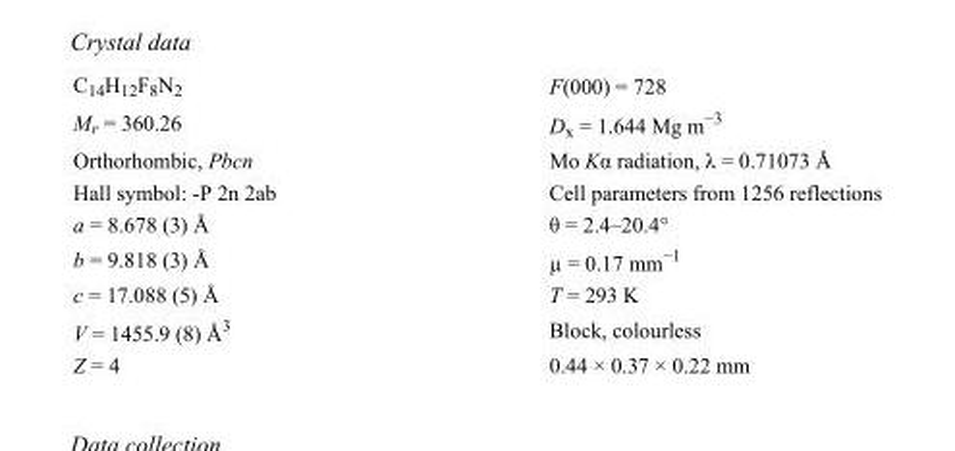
<table><tbody><tr><td>C<sub>14</sub>H<sub>12</sub>F<sub>8</sub>N<sub>2</sub></td><td>F(000) = 728</td></tr><tr><td>M<sub>r</sub> = 360.26</td><td>D<sub>x</sub> = 1.644 Mg m<sup>−3</sup></td></tr><tr><td>Orthorhombic, Pbcn</td><td>Mo Kα radiation, λ = 0.71073 Å</td></tr><tr><td>Hall symbol: -P 2n 2ab</td><td>Cell parameters from 1256 reflections</td></tr><tr><td>a = 8.678 (3) Å</td><td>θ = 2.4–20.4°</td></tr><tr><td>b = 9.818 (3) Å</td><td>µ = 0.17 mm<sup>−1</sup></td></tr><tr><td>c = 17.088 (5) Å</td><td>T = 293 K</td></tr><tr><td>V = 1455.9 (8) Å<sup>3</sup></td><td>Block, colourless</td></tr><tr><td>Z = 4</td><td>0.44 × 0.37 × 0.22 mm</td></tr></tbody></table>